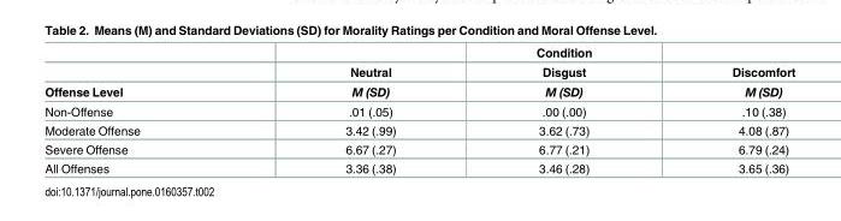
<table><thead><tr><td rowspan="3">Offense Level</td><td rowspan="3">Neutral M (SD)</td><td rowspan="3">Condition Disgust M (SD)</td><td rowspan="3">Discomfort M (SD)</td></tr><tr></tr><tr></tr></thead><tbody><tr><td>Non-Offense</td><td>.01 (.05)</td><td>.00 (.00)</td><td>.10 (.38)</td></tr><tr><td>Moderate Offense</td><td>3.42 (.99)</td><td>3.62 (.73)</td><td>4.08 (.87)</td></tr><tr><td>Severe Offense</td><td>6.67 (.27)</td><td>6.77 (.21)</td><td>6.79 (.24)</td></tr><tr><td>All Offenses</td><td>3.36 (.38)</td><td>3.46 (.28)</td><td>3.65 (.36)</td></tr></tbody></table>